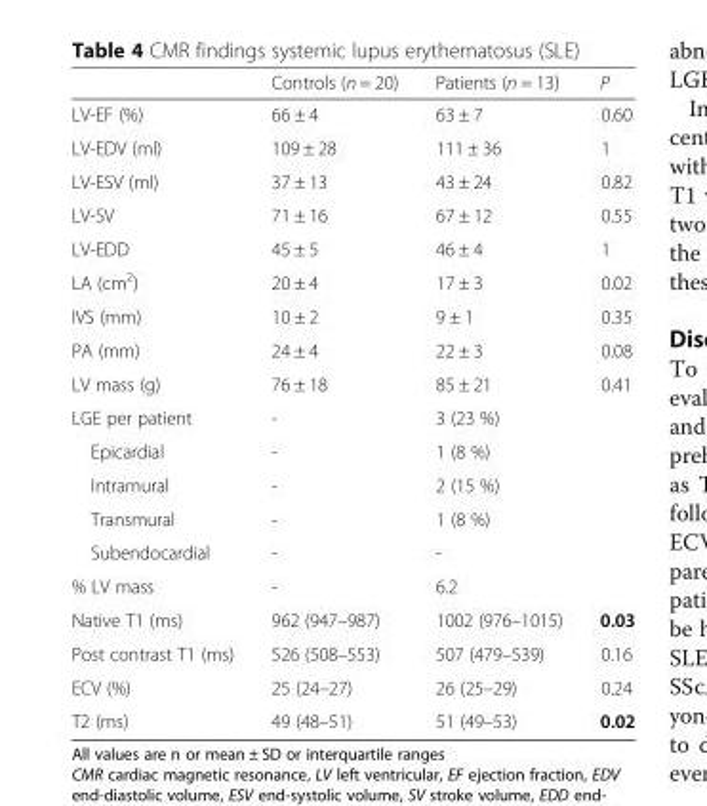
<table><thead><tr><td></td><td>Controls (n = 20)</td><td>Patients (n = 13)</td><td>P</td></tr></thead><tbody><tr><td>LV-EF (%)</td><td>66 ± 4</td><td>63 ± 7</td><td>0.60</td></tr><tr><td>LV-EDV (ml)</td><td>109 ± 28</td><td>111 ± 36</td><td>1</td></tr><tr><td>LV-ESV (ml)</td><td>37 ± 13</td><td>43 ± 24</td><td>0.82</td></tr><tr><td>LV-SV</td><td>71 ± 16</td><td>67 ± 12</td><td>0.55</td></tr><tr><td>LV-EDD</td><td>45 ± 5</td><td>46 ± 4</td><td>1</td></tr><tr><td>LA (cm<sup>2</sup>)</td><td>20 ± 4</td><td>17 ± 3</td><td>0.02</td></tr><tr><td>IVS (mm)</td><td>10 ± 2</td><td>9 ± 1</td><td>0.35</td></tr><tr><td>PA (mm)</td><td>24 ± 4</td><td>22 ± 3</td><td>0.08</td></tr><tr><td>LV mass (g)</td><td>76 ± 18</td><td>85 ± 21</td><td>0.41</td></tr><tr><td>LGE per patient</td><td>-</td><td>3 (23 %)</td><td></td></tr><tr><td>Epicardial</td><td>-</td><td>1 (8 %)</td><td></td></tr><tr><td>Intramural</td><td>-</td><td>2 (15 %)</td><td></td></tr><tr><td>Transmural</td><td>-</td><td>1 (8 %)</td><td></td></tr><tr><td>Subendocardial</td><td>-</td><td>-</td><td></td></tr><tr><td>% LV mass</td><td>-</td><td>6.2</td><td></td></tr><tr><td>Native T1 (ms)</td><td>962 (947–987)</td><td>1002 (976–1015)</td><td>0.03</td></tr><tr><td>Post contrast T1 (ms)</td><td>526 (508–553)</td><td>507 (479–539)</td><td>0.16</td></tr><tr><td>ECV (%)</td><td>25 (24–27)</td><td>26 (25–29)</td><td>0.24</td></tr><tr><td>T2 (ms)</td><td>49 (48–51)</td><td>51 (49–53)</td><td>0.02</td></tr></tbody></table>